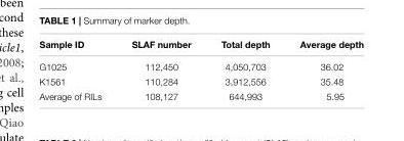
<table><thead><tr><td>Sample ID</td><td>SLAF number</td><td>Total depth</td><td>Average depth</td></tr></thead><tbody><tr><td>G1025</td><td>112,450</td><td>4,050,703</td><td>36.02</td></tr><tr><td>K1561</td><td>110,284</td><td>3,912,556</td><td>35.48</td></tr><tr><td>Average of RILs</td><td>108,127</td><td>644,993</td><td>5.95</td></tr></tbody></table>